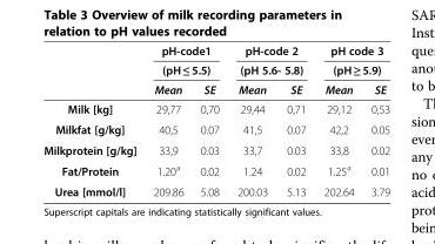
<table><thead><tr><td rowspan="3"></td><td rowspan="2" colspan="2">pH-code1 (pH ≤ 5.5)</td><td rowspan="2" colspan="2">pH-code 2 (pH 5.6- 5.8)</td><td rowspan="2" colspan="2">pH code 3 (pH ≥ 5.9)</td></tr><tr></tr><tr><td>Mean</td><td>SE</td><td>Mean</td><td>SE</td><td>Mean</td><td>SE</td></tr></thead><tbody><tr><td>Milk [kg]</td><td>29,77</td><td>0,70</td><td>29,44</td><td>0,71</td><td>29,12</td><td>0,53</td></tr><tr><td>Milkfat [g/kg]</td><td>40,5</td><td>0.07</td><td>41,5</td><td>0.07</td><td>42,2</td><td>0.05</td></tr><tr><td>Milkprotein [g/kg]</td><td>33,9</td><td>0.03</td><td>33,7</td><td>0.03</td><td>33,8</td><td>0.02</td></tr><tr><td>Fat/Protein</td><td>1.20<sup>a</sup></td><td>0.02</td><td>1.24</td><td>0.02</td><td>1.25<sup>a</sup></td><td>0.01</td></tr><tr><td>Urea [mmol/l]</td><td>209.86</td><td>5.08</td><td>200.03</td><td>5.13</td><td>202.64</td><td>3.79</td></tr></tbody></table>